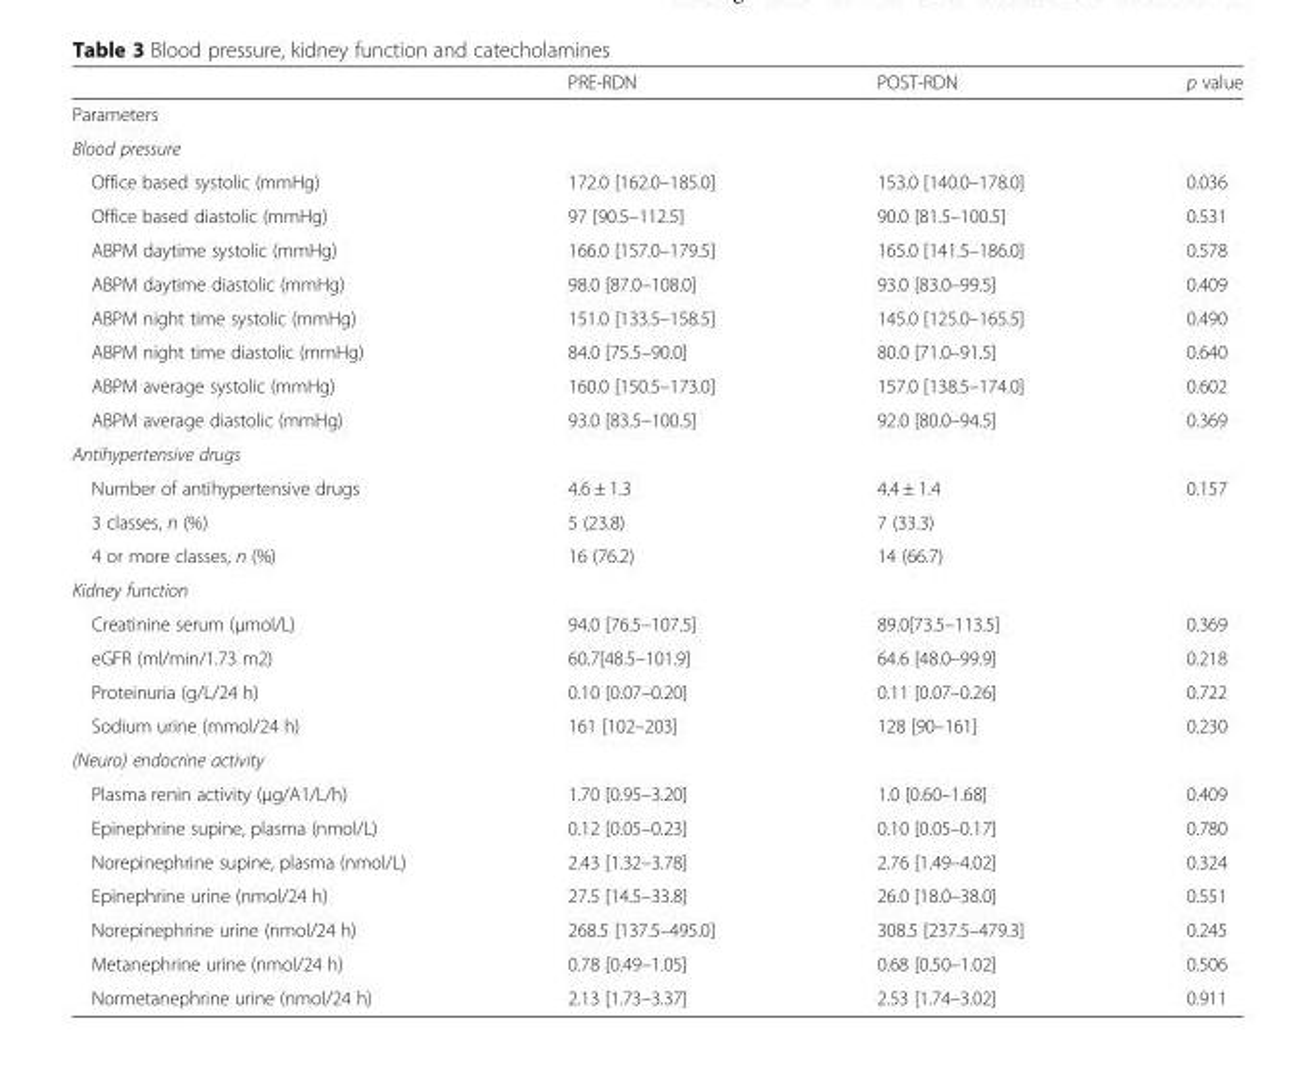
<table><thead><tr><td></td><td>PRE-RDN</td><td>POST-RDN</td><td>p value</td></tr></thead><tbody><tr><td colspan="4">Parameters</td></tr><tr><td colspan="4">Blood pressure</td></tr><tr><td>Office based systolic (mmHg)</td><td>172.0 [162.0–185.0]</td><td>153.0 [140.0–178.0]</td><td>0.036</td></tr><tr><td>Office based diastolic (mmHg)</td><td>97 [90.5–112.5]</td><td>90.0 [81.5–100.5]</td><td>0.531</td></tr><tr><td>ABPM daytime systolic (mmHg)</td><td>166.0 [157.0–179.5]</td><td>165.0 [141.5–186.0]</td><td>0.578</td></tr><tr><td>ABPM daytime diastolic (mmHg)</td><td>98.0 [87.0–108.0]</td><td>93.0 [83.0–99.5]</td><td>0.409</td></tr><tr><td>ABPM night time systolic (mmHg)</td><td>151.0 [133.5–158.5]</td><td>145.0 [125.0–165.5]</td><td>0.490</td></tr><tr><td>ABPM night time diastolic (mmHg)</td><td>84.0 [75.5–90.0]</td><td>80.0 [71.0–91.5]</td><td>0.640</td></tr><tr><td>ABPM average systolic (mmHg)</td><td>160.0 [150.5–173.0]</td><td>157.0 [138.5–174.0]</td><td>0.602</td></tr><tr><td>ABPM average diastolic (mmHg)</td><td>93.0 [83.5–100.5]</td><td>92.0 [80.0–94.5]</td><td>0.369</td></tr><tr><td colspan="4">Antihypertensive drugs</td></tr><tr><td>Number of antihypertensive drugs</td><td>4.6 ± 1.3</td><td>4.4 ± 1.4</td><td>0.157</td></tr><tr><td>3 classes, n (%)</td><td>5 (23.8)</td><td>7 (33.3)</td><td></td></tr><tr><td>4 or more classes, n (%)</td><td>16 (76.2)</td><td>14 (66.7)</td><td></td></tr><tr><td colspan="4">Kidney function</td></tr><tr><td>Creatinine serum (μmol/L)</td><td>94.0 [76.5–107.5]</td><td>89.0[73.5–113.5]</td><td>0.369</td></tr><tr><td>eGFR (ml/min/1.73 m2)</td><td>60.7[48.5–101.9]</td><td>64.6 [48.0–99.9]</td><td>0.218</td></tr><tr><td>Proteinuria (g/L/24 h)</td><td>0.10 [0.07–0.20]</td><td>0.11 [0.07–0.26]</td><td>0.722</td></tr><tr><td>Sodium urine (mmol/24 h)</td><td>161 [102–203]</td><td>128 [90–161]</td><td>0.230</td></tr><tr><td colspan="4">(Neuro) endocrine activity</td></tr><tr><td>Plasma renin activity (μg/A1/L/h)</td><td>1.70 [0.95–3.20]</td><td>1.0 [0.60–1.68]</td><td>0.409</td></tr><tr><td>Epinephrine supine, plasma (nmol/L)</td><td>0.12 [0.05–0.23]</td><td>0.10 [0.05–0.17]</td><td>0.780</td></tr><tr><td>Norepinephrine supine, plasma (nmol/L)</td><td>2.43 [1.32–3.78]</td><td>2.76 [1.49–4.02]</td><td>0.324</td></tr><tr><td>Epinephrine urine (nmol/24 h)</td><td>27.5 [14.5–33.8]</td><td>26.0 [18.0–38.0]</td><td>0.551</td></tr><tr><td>Norepinephrine urine (nmol/24 h)</td><td>268.5 [137.5–495.0]</td><td>308.5 [237.5–479.3]</td><td>0.245</td></tr><tr><td>Metanephrine urine (nmol/24 h)</td><td>0.78 [0.49–1.05]</td><td>0.68 [0.50–1.02]</td><td>0.506</td></tr><tr><td>Normetanephrine urine (nmol/24 h)</td><td>2.13 [1.73–3.37]</td><td>2.53 [1.74–3.02]</td><td>0.911</td></tr></tbody></table>